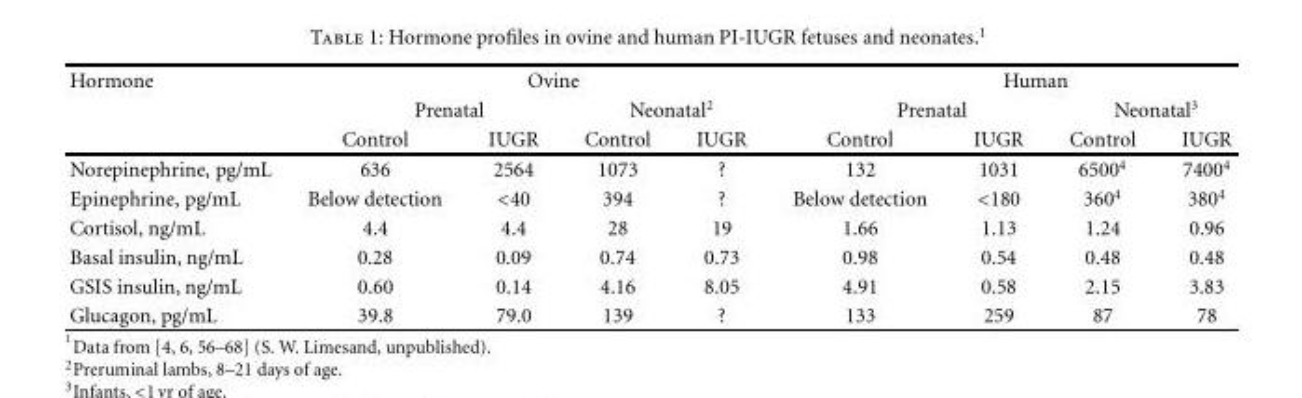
<table><thead><tr><td rowspan="3">Hormone</td><td colspan="4">Ovine</td><td colspan="4">Human</td></tr><tr><td colspan="2">Prenatal</td><td colspan="2">Neonatal<sup>2</sup></td><td colspan="2">Prenatal</td><td colspan="2">Neonatal<sup>3</sup></td></tr><tr><td>Control</td><td>IUGR</td><td>Control</td><td>IUGR</td><td>Control</td><td>IUGR</td><td>Control</td><td>IUGR</td></tr></thead><tbody><tr><td>Norepinephrine, pg/mL</td><td>636</td><td>2564</td><td>1073</td><td>?</td><td>132</td><td>1031</td><td>6500<sup>4</sup></td><td>7400<sup>4</sup></td></tr><tr><td>Epinephrine, pg/mL</td><td>Below detection</td><td>&lt;40</td><td>394</td><td>?</td><td>Below detection</td><td>&lt;180</td><td>360<sup>4</sup></td><td>380<sup>4</sup></td></tr><tr><td>Cortisol, ng/mL</td><td>4.4</td><td>4.4</td><td>28</td><td>19</td><td>1.66</td><td>1.13</td><td>1.24</td><td>0.96</td></tr><tr><td>Basal insulin, ng/mL</td><td>0.28</td><td>0.09</td><td>0.74</td><td>0.73</td><td>0.98</td><td>0.54</td><td>0.48</td><td>0.48</td></tr><tr><td>GSIS insulin, ng/mL</td><td>0.60</td><td>0.14</td><td>4.16</td><td>8.05</td><td>4.91</td><td>0.58</td><td>2.15</td><td>3.83</td></tr><tr><td>Glucagon, pg/mL</td><td>39.8</td><td>79.0</td><td>139</td><td>?</td><td>133</td><td>259</td><td>87</td><td>78</td></tr></tbody></table>